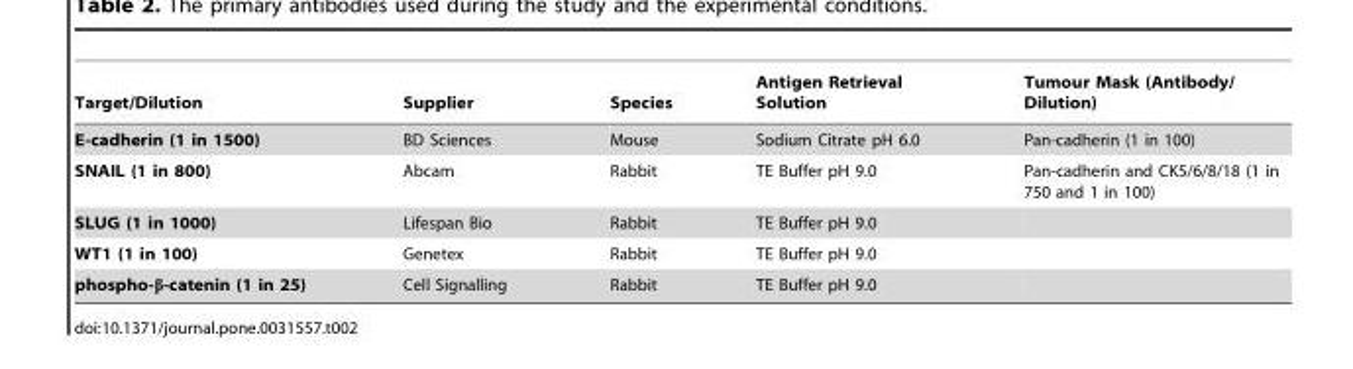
<table><thead><tr><td>Target/Dilution</td><td>Supplier</td><td>Species</td><td>Antigen Retrieval Solution</td><td>Tumour Mask (Antibody/ Dilution)</td></tr></thead><tbody><tr><td>E-cadherin (1 in 1500)</td><td>BD Sciences</td><td>Mouse</td><td>Sodium Citrate pH 6.0</td><td>Pan-cadherin (1 in 100)</td></tr><tr><td>SNAIL (1 in 800)</td><td>Abcam</td><td>Rabbit</td><td>TE Buffer pH 9.0</td><td>Pan-cadherin and CK5/6/8/18 (1 in 750 and 1 in 100)</td></tr><tr><td>SLUG (1 in 1000)</td><td>Lifespan Bio</td><td>Rabbit</td><td>TE Buffer pH 9.0</td><td></td></tr><tr><td>WT1 (1 in 100)</td><td>Genetex</td><td>Rabbit</td><td>TE Buffer pH 9.0</td><td></td></tr><tr><td>phospho-β-catenin (1 in 25)</td><td>Cell Signalling</td><td>Rabbit</td><td>TE Buffer pH 9.0</td><td></td></tr></tbody></table>